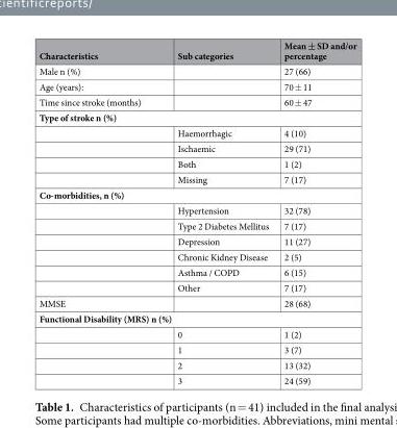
<table><thead><tr><td>Characteristics</td><td>Sub categories</td><td>Mean ± SD and/or percentage</td></tr></thead><tbody><tr><td>Male n (%)</td><td></td><td>27 (66)</td></tr><tr><td>Age (years):</td><td></td><td>70 ± 11</td></tr><tr><td>Time since stroke (months)</td><td></td><td>60 ± 47</td></tr><tr><td colspan="3">Type of stroke n (%)</td></tr><tr><td></td><td>Haemorrhagic</td><td>4 (10)</td></tr><tr><td></td><td>Ischaemic</td><td>29 (71)</td></tr><tr><td></td><td>Both</td><td>1 (2)</td></tr><tr><td></td><td>Missing</td><td>7 (17)</td></tr><tr><td colspan="3">Co-morbidities, n (%)</td></tr><tr><td></td><td>Hypertension</td><td>32 (78)</td></tr><tr><td></td><td>Type 2 Diabetes Mellitus</td><td>7 (17)</td></tr><tr><td></td><td>Depression</td><td>11 (27)</td></tr><tr><td></td><td>Chronic Kidney Disease</td><td>2 (5)</td></tr><tr><td></td><td>Asthma / COPD</td><td>6 (15)</td></tr><tr><td></td><td>Other</td><td>7 (17)</td></tr><tr><td>MMSE</td><td></td><td>28 (68)</td></tr><tr><td colspan="3">Functional Disability (MRS) n (%)</td></tr><tr><td></td><td>0</td><td>1 (2)</td></tr><tr><td></td><td>1</td><td>3 (7)</td></tr><tr><td></td><td>2</td><td>13 (32)</td></tr><tr><td></td><td>3</td><td>24 (59)</td></tr></tbody></table>